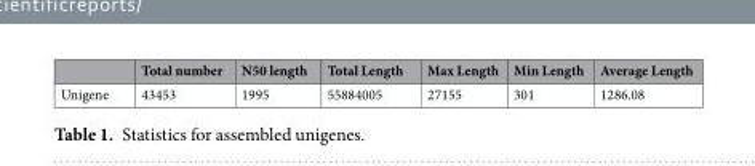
<table><thead><tr><td></td><td>Total number</td><td>N50 length</td><td>Total Length</td><td>Max Length</td><td>Min Length</td><td>Average Length</td></tr></thead><tbody><tr><td>Unigene</td><td>43453</td><td>1995</td><td>55884005</td><td>27155</td><td>301</td><td>1286.08</td></tr></tbody></table>